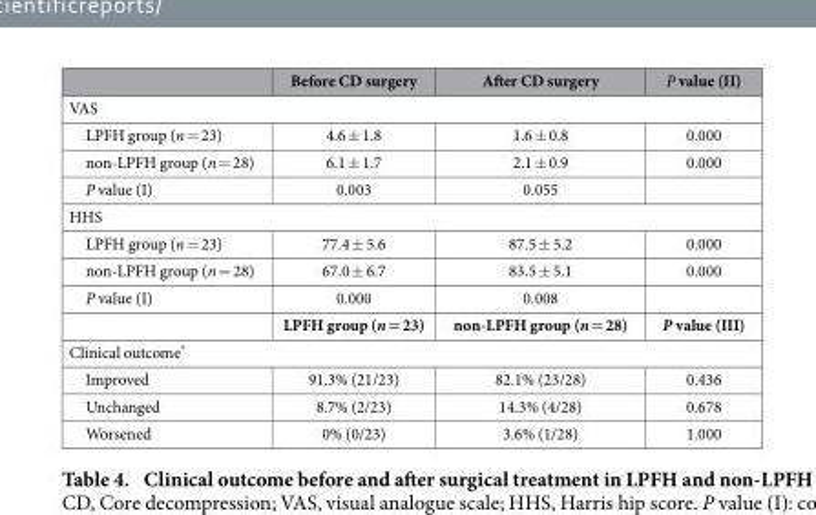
<table><thead><tr><td></td><td>Before CD surgery</td><td>After CD surgery</td><td>P value (II)</td></tr></thead><tbody><tr><td colspan="4">VAS</td></tr><tr><td>LPFH group (n = 23)</td><td>4.6 ± 1.8</td><td>1.6 ± 0.8</td><td>0.000</td></tr><tr><td>non-LPFH group (n = 28)</td><td>6.1 ± 1.7</td><td>2.1 ± 0.9</td><td>0.000</td></tr><tr><td>P value (I)</td><td>0.003</td><td>0.055</td><td></td></tr><tr><td colspan="4">HHS</td></tr><tr><td>LPFH group (n = 23)</td><td>77.4 ± 5.6</td><td>87.5 ± 5.2</td><td>0.000</td></tr><tr><td>non-LPFH group (n = 28)</td><td>67.0 ± 6.7</td><td>83.5 ± 5.1</td><td>0.000</td></tr><tr><td rowspan="2">P value (I)</td><td>0.000</td><td>0.008</td><td></td></tr><tr><td>LPFH group (n = 23)</td><td>non-LPFH group (n = 28)</td><td>P value (III)</td></tr><tr><td colspan="4">Clinical outcome*</td></tr><tr><td>Improved</td><td>91.3% (21/23)</td><td>82.1% (23/28)</td><td>0.436</td></tr><tr><td>Unchanged</td><td>8.7% (2/23)</td><td>14.3% (4/28)</td><td>0.678</td></tr><tr><td>Worsened</td><td>0% (0/23)</td><td>3.6% (1/28)</td><td>1.000</td></tr></tbody></table>